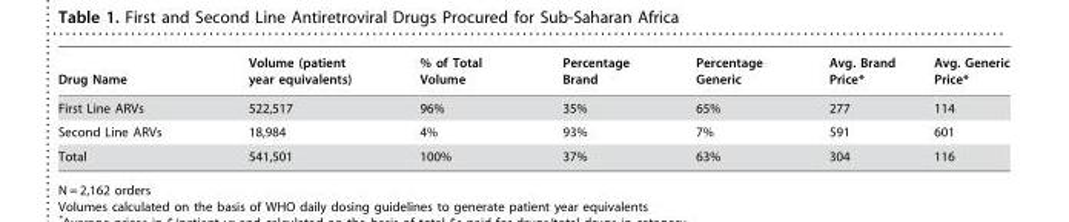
<table><thead><tr><td>Drug Name</td><td>Volume (patient year equivalents)</td><td>% of Total Volume</td><td>Percentage Brand</td><td>Percentage Generic</td><td>Avg. Brand Price*</td><td>Avg. Generic Price*</td></tr></thead><tbody><tr><td>First Line ARVs</td><td>522,517</td><td>96%</td><td>35%</td><td>65%</td><td>277</td><td>114</td></tr><tr><td>Second Line ARVs</td><td>18,984</td><td>4%</td><td>93%</td><td>7%</td><td>591</td><td>601</td></tr><tr><td>Total</td><td>541,501</td><td>100%</td><td>37%</td><td>63%</td><td>304</td><td>116</td></tr></tbody></table>